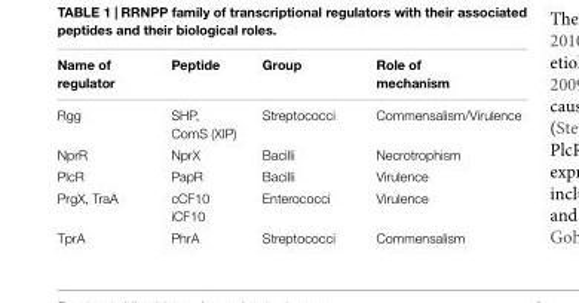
<table><thead><tr><td>Name of regulator</td><td>Peptide</td><td>Group</td><td>Role of mechanism</td></tr></thead><tbody><tr><td>Rgg</td><td>SHP, ComS (XIP)</td><td>Streptococci</td><td>Commensalism/Virulence</td></tr><tr><td>NprR</td><td>NprX</td><td>Bacilli</td><td>Necrotrophism</td></tr><tr><td>PlcR</td><td>PapR</td><td>Bacilli</td><td>Virulence</td></tr><tr><td>PrgX, TraA</td><td>cCF10 iCF10</td><td>Enterococci</td><td>Virulence</td></tr><tr><td>TprA</td><td>PhrA</td><td>Streptococci</td><td>Commensalism</td></tr></tbody></table>